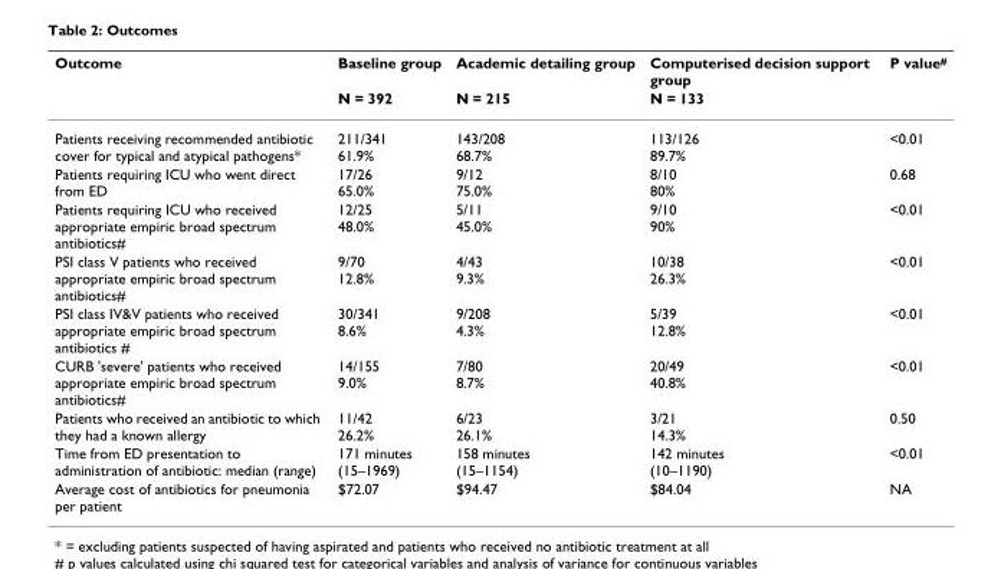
<table><thead><tr><td rowspan="2">Outcome</td><td rowspan="2">Baseline group N = 392</td><td rowspan="2">Academic detailing group N = 215</td><td rowspan="2">Computerised decision support group N = 133</td><td rowspan="2">P value<sup>#</sup></td></tr><tr></tr></thead><tbody><tr><td>Patients receiving recommended antibiotic cover for typical and atypical pathogens*</td><td>211/341 61.9%</td><td>143/208 68.7%</td><td>113/126 89.7%</td><td>&lt;0.01</td></tr><tr><td>Patients requiring ICU who went direct from ED</td><td>17/26 65.0%</td><td>9/12 75.0%</td><td>8/10 80%</td><td>0.68</td></tr><tr><td>Patients requiring ICU who received appropriate empiric broad spectrum antibiotics#</td><td>12/25 48.0%</td><td>5/11 45.0%</td><td>9/10 90%</td><td>&lt;0.01</td></tr><tr><td>PSI class V patients who received appropriate empiric broad spectrum antibiotics#</td><td>9/70 12.8%</td><td>4/43 9.3%</td><td>10/38 26.3%</td><td>&lt;0.01</td></tr><tr><td>PSI class IV&amp;V patients who received appropriate empiric broad spectrum antibiotics #</td><td>30/341 8.6%</td><td>9/208 4.3%</td><td>5/39 12.8%</td><td>&lt;0.01</td></tr><tr><td>CURB &#x27;severe&#x27; patients who received appropriate empiric broad spectrum antibiotics#</td><td>14/155 9.0%</td><td>7/80 8.7%</td><td>20/49 40.8%</td><td>&lt;0.01</td></tr><tr><td>Patients who received an antibiotic to which they had a known allergy</td><td>11/42 26.2%</td><td>6/23 26.1%</td><td>3/21 14.3%</td><td>0.50</td></tr><tr><td>Time from ED presentation to administration of antibiotic: median (range)</td><td>171 minutes (15–1969)</td><td>158 minutes (15–1154)</td><td>142 minutes (10–1190)</td><td>&lt;0.01</td></tr><tr><td>Average cost of antibiotics for pneumonia per patient</td><td>$72.07</td><td>$94.47</td><td>$84.04</td><td>NA</td></tr></tbody></table>